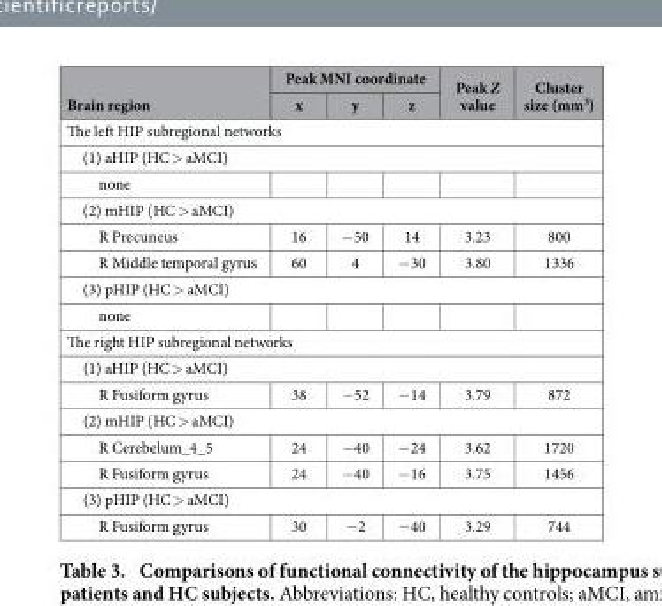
<table><thead><tr><td rowspan="2">Brain region</td><td colspan="3">Peak MNI coordinate</td><td rowspan="2">Peak Z value</td><td rowspan="2">Cluster size (mm<sup>3</sup>)</td></tr><tr><td>x</td><td>y</td><td>z</td></tr></thead><tbody><tr><td colspan="6">The left HIP subregional networks</td></tr><tr><td colspan="6">(1) aHIP (HC &gt; aMCI)</td></tr><tr><td colspan="6">none</td></tr><tr><td colspan="6">(2) mHIP (HC &gt; aMCI)</td></tr><tr><td>R Precuneus</td><td>16</td><td>− 50</td><td>14</td><td>3.23</td><td>800</td></tr><tr><td>R Middle temporal gyrus</td><td>60</td><td>4</td><td>− 30</td><td>3.80</td><td>1336</td></tr><tr><td colspan="6">(3) pHIP (HC &gt; aMCI)</td></tr><tr><td colspan="6">none</td></tr><tr><td colspan="6">The right HIP subregional networks</td></tr><tr><td colspan="6">(1) aHIP (HC &gt; aMCI)</td></tr><tr><td>R Fusiform gyrus</td><td>38</td><td>− 52</td><td>− 14</td><td>3.79</td><td>872</td></tr><tr><td colspan="6">(2) mHIP (HC &gt; aMCI)</td></tr><tr><td>R Cerebelum_4_5</td><td>24</td><td>− 40</td><td>− 24</td><td>3.62</td><td>1720</td></tr><tr><td>R Fusiform gyrus</td><td>24</td><td>− 40</td><td>− 16</td><td>3.75</td><td>1456</td></tr><tr><td colspan="6">(3) pHIP (HC &gt; aMCI)</td></tr><tr><td>R Fusiform gyrus</td><td>30</td><td>− 2</td><td>− 40</td><td>3.29</td><td>744</td></tr></tbody></table>